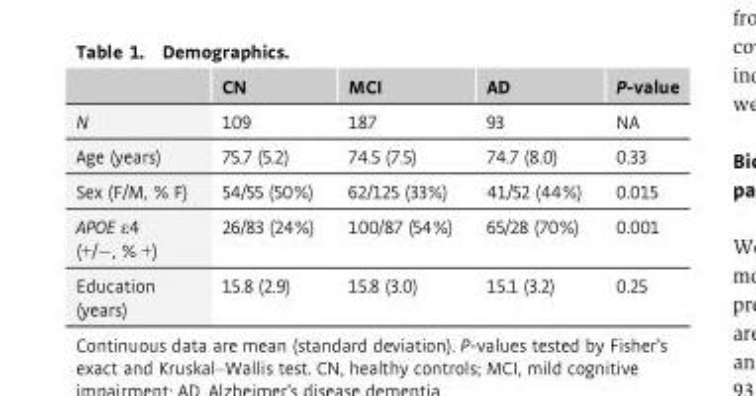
<table><thead><tr><td></td><td>CN</td><td>MCI</td><td>AD</td><td>P-value</td></tr></thead><tbody><tr><td>N</td><td>109</td><td>187</td><td>93</td><td>NA</td></tr><tr><td>Age (years)</td><td>75.7 (5.2)</td><td>74.5 (7.5)</td><td>74.7 (8.0)</td><td>0.33</td></tr><tr><td>Sex (F/M, % F)</td><td>54/55 (50%)</td><td>62/125 (33%)</td><td>41/52 (44%)</td><td>0.015</td></tr><tr><td>APOE ε4 (+/−, % +)</td><td>26/83 (24%)</td><td>100/87 (54%)</td><td>65/28 (70%)</td><td>0.001</td></tr><tr><td>Education (years)</td><td>15.8 (2.9)</td><td>15.8 (3.0)</td><td>15.1 (3.2)</td><td>0.25</td></tr></tbody></table>